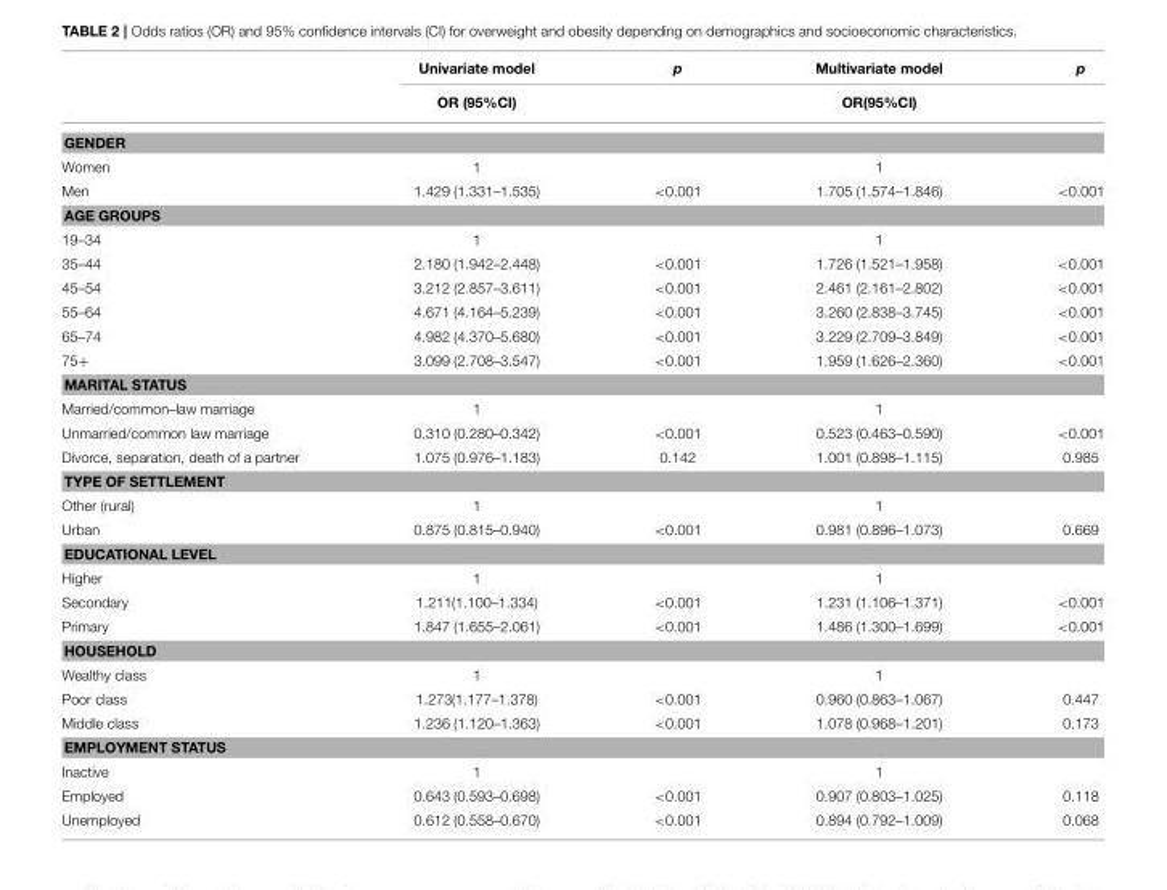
<table><thead><tr><td rowspan="2"></td><td rowspan="2">Univariate model OR (95%CI)</td><td rowspan="2">p</td><td rowspan="2">Multivariate model OR(95%CI)</td><td rowspan="2">p</td></tr><tr></tr></thead><tbody><tr><td colspan="5">GENDER</td></tr><tr><td>Women</td><td>1</td><td></td><td>1</td><td></td></tr><tr><td>Men</td><td>1.429 (1.331–1.535)</td><td>&lt;0.001</td><td>1.705 (1.574–1.846)</td><td>&lt;0.001</td></tr><tr><td colspan="5">AGE GROUPS</td></tr><tr><td>19–34</td><td>1</td><td></td><td>1</td><td></td></tr><tr><td>35–44</td><td>2.180 (1.942–2.448)</td><td>&lt;0.001</td><td>1.726 (1.521–1.958)</td><td>&lt;0.001</td></tr><tr><td>45–54</td><td>3.212 (2.857–3.611)</td><td>&lt;0.001</td><td>2.461 (2.161–2.802)</td><td>&lt;0.001</td></tr><tr><td>55–64</td><td>4.671 (4.164–5.239)</td><td>&lt;0.001</td><td>3.260 (2.838–3.745)</td><td>&lt;0.001</td></tr><tr><td>65–74</td><td>4.982 (4.370–5.680)</td><td>&lt;0.001</td><td>3.229 (2.709–3.849)</td><td>&lt;0.001</td></tr><tr><td>75+</td><td>3.099 (2.708–3.547)</td><td>&lt;0.001</td><td>1.959 (1.626–2.360)</td><td>&lt;0.001</td></tr><tr><td colspan="5">MARITAL STATUS</td></tr><tr><td>Married/common–law marriage</td><td>1</td><td></td><td>1</td><td></td></tr><tr><td>Unmarried/common law marriage</td><td>0.310 (0.280–0.342)</td><td>&lt;0.001</td><td>0.523 (0.463–0.590)</td><td>&lt;0.001</td></tr><tr><td>Divorce, separation, death of a partner</td><td>1.075 (0.976–1.183)</td><td>0.142</td><td>1.001 (0.898–1.115)</td><td>0.985</td></tr><tr><td colspan="5">TYPE OF SETTLEMENT</td></tr><tr><td>Other (rural)</td><td>1</td><td></td><td>1</td><td></td></tr><tr><td>Urban</td><td>0.875 (0.815–0.940)</td><td>&lt;0.001</td><td>0.981 (0.896–1.073)</td><td>0.669</td></tr><tr><td colspan="5">EDUCATIONAL LEVEL</td></tr><tr><td>Higher</td><td>1</td><td></td><td>1</td><td></td></tr><tr><td>Secondary</td><td>1.211(1.100–1.334)</td><td>&lt;0.001</td><td>1.231 (1.106–1.371)</td><td>&lt;0.001</td></tr><tr><td>Primary</td><td>1.847 (1.655–2.061)</td><td>&lt;0.001</td><td>1.486 (1.300–1.699)</td><td>&lt;0.001</td></tr><tr><td colspan="5">HOUSEHOLD</td></tr><tr><td>Wealthy class</td><td>1</td><td></td><td>1</td><td></td></tr><tr><td>Poor class</td><td>1.273(1.177–1.378)</td><td>&lt;0.001</td><td>0.960 (0.863–1.067)</td><td>0.447</td></tr><tr><td>Middle class</td><td>1.236 (1.120–1.363)</td><td>&lt;0.001</td><td>1.078 (0.968–1.201)</td><td>0.173</td></tr><tr><td colspan="5">EMPLOYMENT STATUS</td></tr><tr><td>Inactive</td><td>1</td><td></td><td>1</td><td></td></tr><tr><td>Employed</td><td>0.643 (0.593–0.698)</td><td>&lt;0.001</td><td>0.907 (0.803–1.025)</td><td>0.118</td></tr><tr><td>Unemployed</td><td>0.612 (0.558–0.670)</td><td>&lt;0.001</td><td>0.894 (0.792–1.009)</td><td>0.068</td></tr></tbody></table>